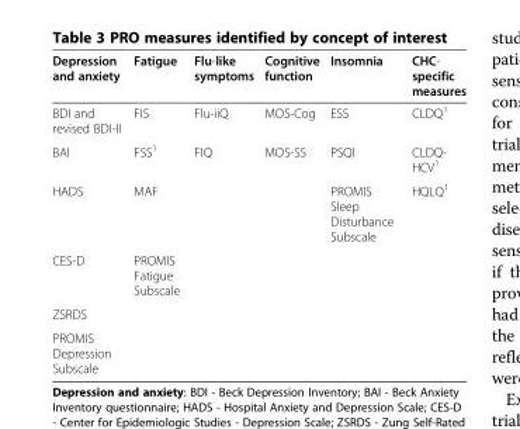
<table><thead><tr><td>Depression and anxiety</td><td>Fatigue</td><td>Flu-like symptoms</td><td>Cognitive function</td><td>Insomnia</td><td>CHC- specific measures</td></tr></thead><tbody><tr><td>BDI and revised BDI-II</td><td>FIS</td><td>Flu-iiQ</td><td>MOS-Cog</td><td>ESS</td><td>CLDQ<sup>1</sup></td></tr><tr><td>BAI</td><td>FSS<sup>1</sup></td><td>FIQ</td><td>MOS-SS</td><td>PSQI</td><td>CLDQ- HCV<sup>1</sup></td></tr><tr><td>HADS</td><td>MAF</td><td></td><td></td><td>PROMIS Sleep Disturbance Subscale</td><td>HQLQ<sup>1</sup></td></tr><tr><td>CES-D</td><td>PROMIS Fatigue Subscale</td><td></td><td></td><td></td><td></td></tr><tr><td colspan="6">ZSRDS</td></tr><tr><td>PROMIS Depression Subscale</td><td></td><td></td><td></td><td></td><td></td></tr></tbody></table>